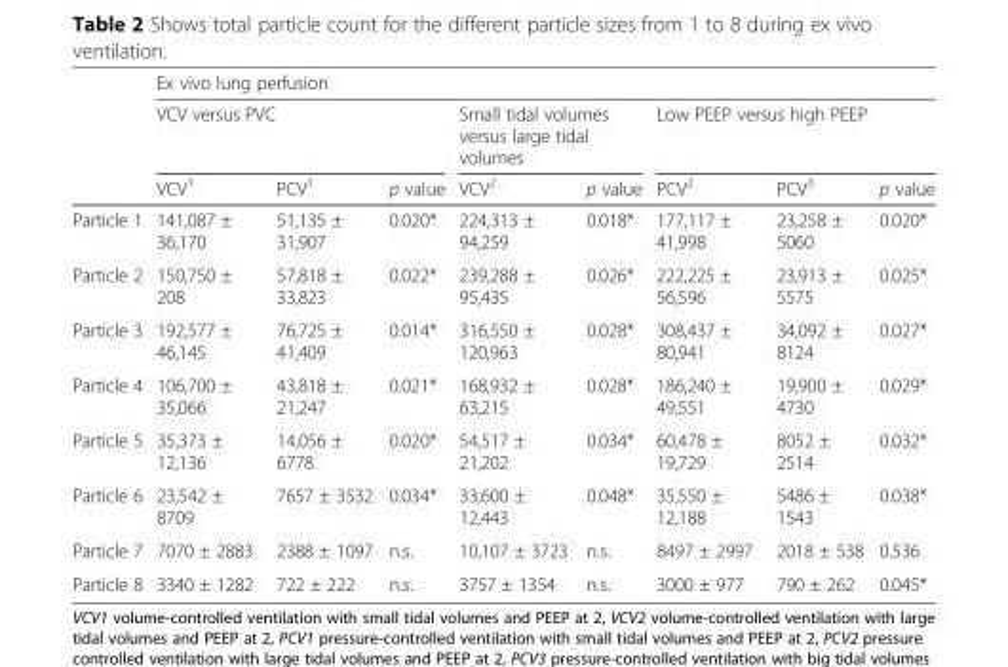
<table><thead><tr><td rowspan="3"></td><td colspan="8">Ex vivo lung perfusion</td></tr><tr><td colspan="3">VCV versus PVC</td><td colspan="2">Small tidal volumes versus large tidal volumes</td><td colspan="3">Low PEEP versus high PEEP</td></tr><tr><td>VCV<sup>1</sup></td><td>PCV<sup>1</sup></td><td>p value</td><td>VCV<sup>2</sup></td><td>p value</td><td>PCV<sup>2</sup></td><td>PCV<sup>3</sup></td><td>p value</td></tr></thead><tbody><tr><td>Particle 1</td><td>141,087 ± 36,170</td><td>51,135 ± 31,907</td><td>0.020*</td><td>224,313 ± 94,259</td><td>0.018*</td><td>177,117 ± 41,998</td><td>23,258 ± 5060</td><td>0.020*</td></tr><tr><td>Particle 2</td><td>150,750 ± 208</td><td>57,818 ± 33,823</td><td>0.022*</td><td>239,288 ± 95,435</td><td>0.026*</td><td>222,225 ± 56,596</td><td>23,913 ± 5575</td><td>0.025*</td></tr><tr><td>Particle 3</td><td>192,577 ± 46,145</td><td>76,725 ± 41,409</td><td>0.014*</td><td>316,550 ± 120,963</td><td>0.028*</td><td>308,437 ± 80,941</td><td>34,092 ± 8124</td><td>0.027*</td></tr><tr><td>Particle 4</td><td>106,700 ± 35,066</td><td>43,818 ± 21,247</td><td>0.021*</td><td>168,932 ± 63,215</td><td>0.028*</td><td>186,240 ± 49,551</td><td>19,900 ± 4730</td><td>0.029*</td></tr><tr><td>Particle 5</td><td>35,373 ± 12,136</td><td>14,056 ± 6778</td><td>0.020*</td><td>54,517 ± 21,202</td><td>0.034*</td><td>60,478 ± 19,729</td><td>8052 ± 2514</td><td>0.032*</td></tr><tr><td>Particle 6</td><td>23,542 ± 8709</td><td>7657 ± 3532</td><td>0.034*</td><td>33,600 ± 12,443</td><td>0.048*</td><td>35,550 ± 12,188</td><td>5486 ± 1543</td><td>0.038*</td></tr><tr><td>Particle 7</td><td>7070 ± 2883</td><td>2388 ± 1097</td><td>n.s.</td><td>10,107 ± 3723</td><td>n.s.</td><td>8497 ± 2997</td><td>2018 ± 538</td><td>0.536</td></tr><tr><td>Particle 8</td><td>3340 ± 1282</td><td>722 ± 222</td><td>n.s.</td><td>3757 ± 1354</td><td>n.s.</td><td>3000 ± 977</td><td>790 ± 262</td><td>0.045*</td></tr></tbody></table>